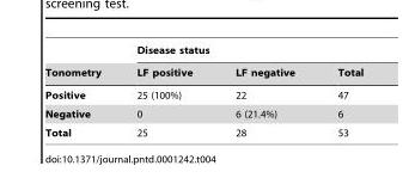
<table><thead><tr><td rowspan="2">Tonometry</td><td colspan="3">Disease status</td></tr><tr><td>LF positive</td><td>LF negative</td><td>Total</td></tr></thead><tbody><tr><td>Positive</td><td>25 (100%)</td><td>22</td><td>47</td></tr><tr><td>Negative</td><td>0</td><td>6 (21.4%)</td><td>6</td></tr><tr><td>Total</td><td>25</td><td>28</td><td>53</td></tr></tbody></table>